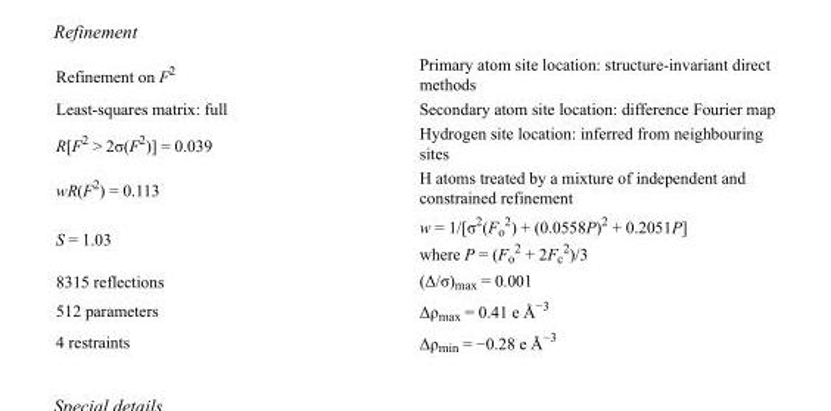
<table><tbody><tr><td>Refinement on F<sup>2</sup></td><td>Primary atom site location: structure-invariant direct methods</td></tr><tr><td>Least-squares matrix: full</td><td>Secondary atom site location: difference Fourier map</td></tr><tr><td>R[F<sup>2</sup> &gt; 2σ(F<sup>2</sup>)] = 0.039</td><td>Hydrogen site location: inferred from neighbouring sites</td></tr><tr><td>wR(F<sup>2</sup>) = 0.113</td><td>H atoms treated by a mixture of independent and constrained refinement</td></tr><tr><td>S = 1.03</td><td>w = 1/[σ<sup>2</sup>(F<sub>o</sub> <sup>2</sup>) + (0.0558P)<sup>2</sup> + 0.2051P] where P = (F<sub>o</sub> <sup>2</sup> + 2F<sub>c</sub> <sup>2</sup>)/3</td></tr><tr><td>8315 reflections</td><td>(Δ/σ)<sub>max</sub> = 0.001</td></tr><tr><td>512 parameters</td><td>Δρ<sub>max</sub> = 0.41 e Å<sup>−3</sup></td></tr><tr><td>4 restraints</td><td>Δρ<sub>min</sub> = −0.28 e Å<sup>−3</sup></td></tr></tbody></table>